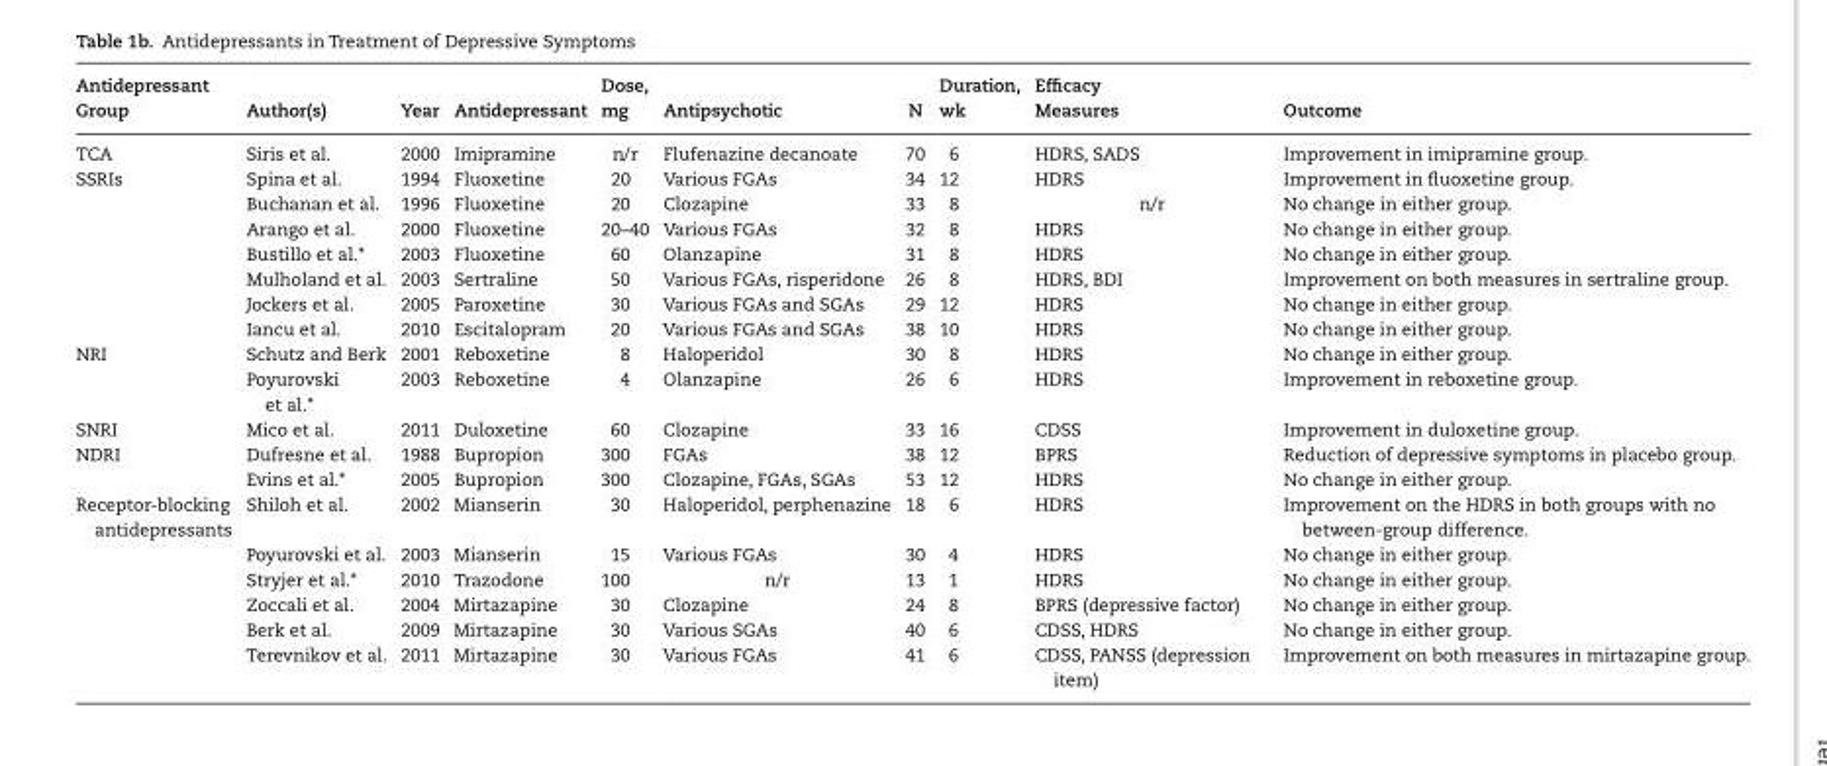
<table><thead><tr><td>Antidepressant Group</td><td>Author(s)</td><td>Year</td><td>Antidepressant</td><td>Dose, mg</td><td>Antipsychotic</td><td>N</td><td>Duration, wk</td><td>Efficacy Measures</td><td>Outcome</td></tr></thead><tbody><tr><td>TCA</td><td>Siris et al.</td><td>2000</td><td>Imipramine</td><td>n/r</td><td>Flufenazine decanoate</td><td>70</td><td>6</td><td>HDRS, SADS</td><td>Improvement in imipramine group.</td></tr><tr><td rowspan="7">SSRIs</td><td>Spina et al.</td><td>1994</td><td>Fluoxetine</td><td>20</td><td>Various FGAs</td><td>34</td><td>12</td><td>HDRS</td><td>Improvement in fluoxetine group.</td></tr><tr><td>Buchanan et al.</td><td>1996</td><td>Fluoxetine</td><td>20</td><td>Clozapine</td><td>33</td><td>8</td><td>n/r</td><td>No change in either group.</td></tr><tr><td>Arango et al.</td><td>2000</td><td>Fluoxetine</td><td>20–40</td><td>Various FGAs</td><td>32</td><td>8</td><td>HDRS</td><td>No change in either group.</td></tr><tr><td>Bustillo et al.*</td><td>2003</td><td>Fluoxetine</td><td>60</td><td>Olanzapine</td><td>31</td><td>8</td><td>HDRS</td><td>No change in either group.</td></tr><tr><td>Mulholand et al.</td><td>2003</td><td>Sertraline</td><td>50</td><td>Various FGAs, risperidone</td><td>26</td><td>8</td><td>HDRS, BDI</td><td>Improvement on both measures in sertraline group.</td></tr><tr><td>Jockers et al.</td><td>2005</td><td>Paroxetine</td><td>30</td><td>Various FGAs and SGAs</td><td>29</td><td>12</td><td>HDRS</td><td>No change in either group.</td></tr><tr><td>Iancu et al.</td><td>2010</td><td>Escitalopram</td><td>20</td><td>Various FGAs and SGAs</td><td>38</td><td>10</td><td>HDRS</td><td>No change in either group.</td></tr><tr><td rowspan="2">NRI</td><td>Schutz and Berk</td><td>2001</td><td>Reboxetine</td><td>8</td><td>Haloperidol</td><td>30</td><td>8</td><td>HDRS</td><td>No change in either group.</td></tr><tr><td>Poyurovski et al.*</td><td>2003</td><td>Reboxetine</td><td>4</td><td>Olanzapine</td><td>26</td><td>6</td><td>HDRS</td><td>Improvement in reboxetine group.</td></tr><tr><td>SNRI</td><td>Mico et al.</td><td>2011</td><td>Duloxetine</td><td>60</td><td>Clozapine</td><td>33</td><td>16</td><td>CDSS</td><td>Improvement in duloxetine group.</td></tr><tr><td rowspan="2">NDRI</td><td>Dufresne et al.</td><td>1988</td><td>Bupropion</td><td>300</td><td>FGAs</td><td>38</td><td>12</td><td>BPRS</td><td>Reduction of depressive symptoms in placebo group.</td></tr><tr><td>Evins et al.*</td><td>2005</td><td>Bupropion</td><td>300</td><td>Clozapine, FGAs, SGAs</td><td>53</td><td>12</td><td>HDRS</td><td>No change in either group.</td></tr><tr><td rowspan="6">Receptor-blocking antidepressants</td><td>Shiloh et al.</td><td>2002</td><td>Mianserin</td><td>30</td><td>Haloperidol, perphenazine</td><td>18</td><td>6</td><td>HDRS</td><td>Improvement on the HDRS in both groups with no between-group difference.</td></tr><tr><td>Poyurovski et al.</td><td>2003</td><td>Mianserin</td><td>15</td><td>Various FGAs</td><td>30</td><td>4</td><td>HDRS</td><td>No change in either group.</td></tr><tr><td>Stryjer et al.*</td><td>2010</td><td>Trazodone</td><td>100</td><td>n/r</td><td>13</td><td>1</td><td>HDRS</td><td>No change in either group.</td></tr><tr><td>Zoccali et al.</td><td>2004</td><td>Mirtazapine</td><td>30</td><td>Clozapine</td><td>24</td><td>8</td><td>BPRS (depressive factor)</td><td>No change in either group.</td></tr><tr><td>Berk et al.</td><td>2009</td><td>Mirtazapine</td><td>30</td><td>Various SGAs</td><td>40</td><td>6</td><td>CDSS, HDRS</td><td>No change in either group.</td></tr><tr><td>Terevnikov et al.</td><td>2011</td><td>Mirtazapine</td><td>30</td><td>Various FGAs</td><td>41</td><td>6</td><td>CDSS, PANSS (depression item)</td><td>Improvement on both measures in mirtazapine group.</td></tr></tbody></table>